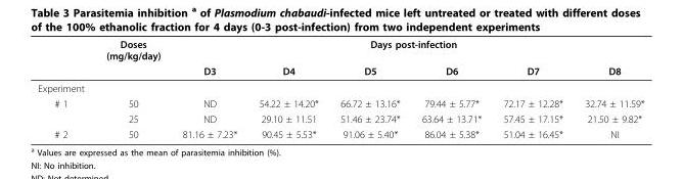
<table><thead><tr><td rowspan="2"></td><td rowspan="2">Doses (mg/kg/day)</td><td colspan="6">Days post-infection</td></tr><tr><td>D3</td><td>D4</td><td>D5</td><td>D6</td><td>D7</td><td>D8</td></tr></thead><tbody><tr><td colspan="8">Experiment</td></tr><tr><td rowspan="2"># 1</td><td>50</td><td>ND</td><td>54.22 ± 14.20*</td><td>66.72 ± 13.16*</td><td>79.44 ± 5.77*</td><td>72.17 ± 12.28*</td><td>32.74 ± 11.59*</td></tr><tr><td>25</td><td>ND</td><td>29.10 ± 11.51</td><td>51.46 ± 23.74*</td><td>63.64 ± 13.71*</td><td>57.45 ± 17.15*</td><td>21.50 ± 9.82*</td></tr><tr><td># 2</td><td>50</td><td>81.16 ± 7.23*</td><td>90.45 ± 5.53*</td><td>91.06 ± 5.40*</td><td>86.04 ± 5.38*</td><td>51.04 ± 16.45*</td><td>NI</td></tr></tbody></table>